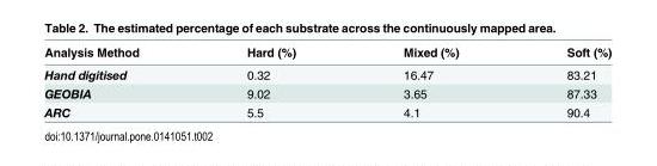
<table><thead><tr><td>Analysis Method</td><td>Hard (%)</td><td>Mixed (%)</td><td>Soft (%)</td></tr></thead><tbody><tr><td>Hand digitised</td><td>0.32</td><td>16.47</td><td>83.21</td></tr><tr><td>GEOBIA</td><td>9.02</td><td>3.65</td><td>87.33</td></tr><tr><td>ARC</td><td>5.5</td><td>4.1</td><td>90.4</td></tr></tbody></table>